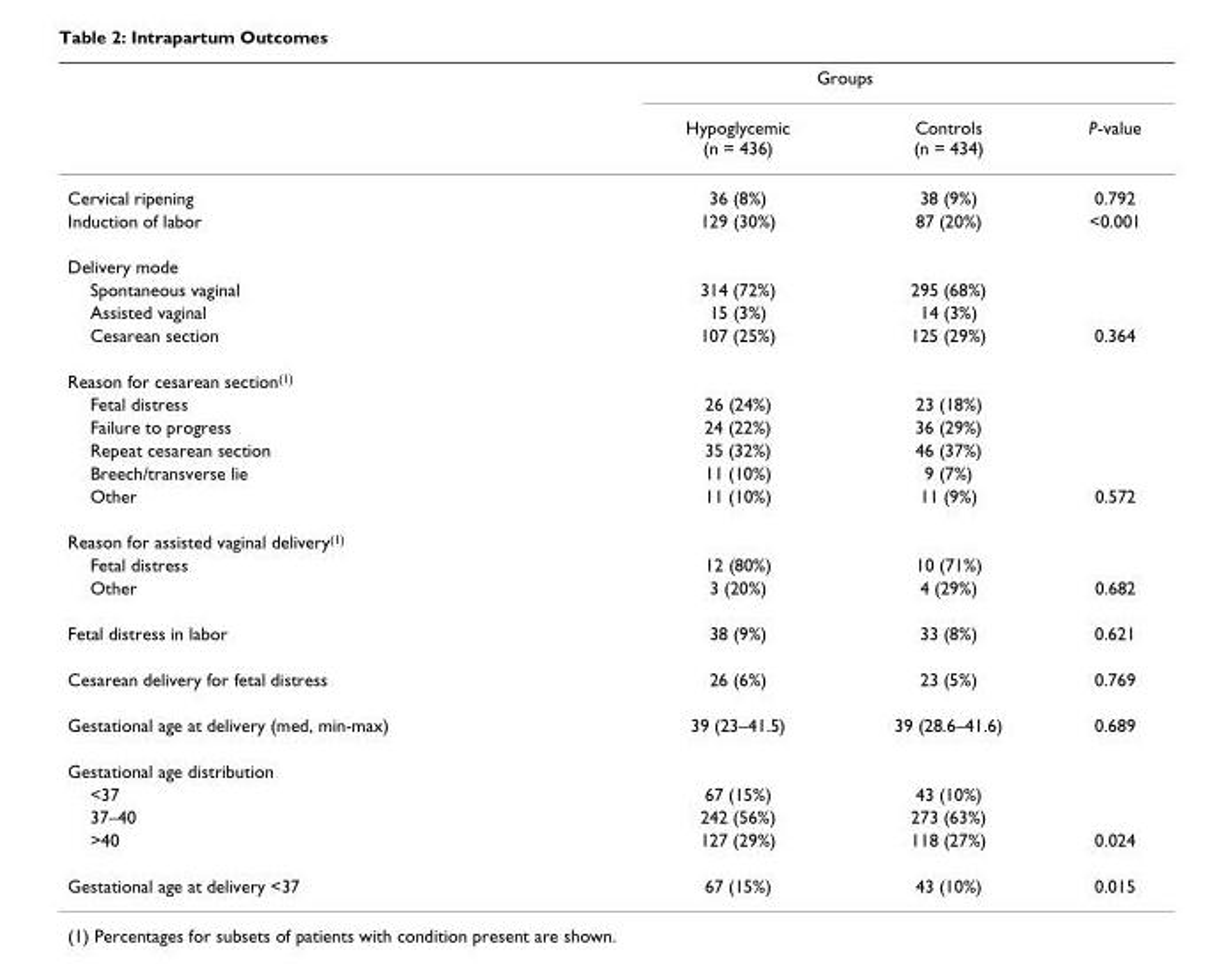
<table><thead><tr><td rowspan="2"></td><td colspan="2">Groups</td><td rowspan="2">P-value</td></tr><tr><td>Hypoglycemic (n = 436)</td><td>Controls (n = 434)</td></tr></thead><tbody><tr><td>Cervical ripening</td><td>36 (8%)</td><td>38 (9%)</td><td>0.792</td></tr><tr><td>Induction of labor</td><td>129 (30%)</td><td>87 (20%)</td><td>&lt;0.001</td></tr><tr><td colspan="4">Delivery mode</td></tr><tr><td>Spontaneous vaginal</td><td>314 (72%)</td><td>295 (68%)</td><td></td></tr><tr><td>Assisted vaginal</td><td>15 (3%)</td><td>14 (3%)</td><td></td></tr><tr><td>Cesarean section</td><td>107 (25%)</td><td>125 (29%)</td><td>0.364</td></tr><tr><td colspan="4">Reason for cesarean section<sup>(1)</sup></td></tr><tr><td>Fetal distress</td><td>26 (24%)</td><td>23 (18%)</td><td></td></tr><tr><td>Failure to progress</td><td>24 (22%)</td><td>36 (29%)</td><td></td></tr><tr><td>Repeat cesarean section</td><td>35 (32%)</td><td>46 (37%)</td><td></td></tr><tr><td>Breech/transverse lie</td><td>11 (10%)</td><td>9 (7%)</td><td></td></tr><tr><td>Other</td><td>11 (10%)</td><td>11 (9%)</td><td>0.572</td></tr><tr><td colspan="4">Reason for assisted vaginal delivery<sup>(1)</sup></td></tr><tr><td>Fetal distress</td><td>12 (80%)</td><td>10 (71%)</td><td></td></tr><tr><td>Other</td><td>3 (20%)</td><td>4 (29%)</td><td>0.682</td></tr><tr><td>Fetal distress in labor</td><td>38 (9%)</td><td>33 (8%)</td><td>0.621</td></tr><tr><td>Cesarean delivery for fetal distress</td><td>26 (6%)</td><td>23 (5%)</td><td>0.769</td></tr><tr><td>Gestational age at delivery (med, min-max)</td><td>39 (23–41.5)</td><td>39 (28.6–41.6)</td><td>0.689</td></tr><tr><td colspan="4">Gestational age distribution</td></tr><tr><td>&lt;37</td><td>67 (15%)</td><td>43 (10%)</td><td></td></tr><tr><td>37–40</td><td>242 (56%)</td><td>273 (63%)</td><td></td></tr><tr><td>&gt;40</td><td>127 (29%)</td><td>118 (27%)</td><td>0.024</td></tr><tr><td>Gestational age at delivery &lt;37</td><td>67 (15%)</td><td>43 (10%)</td><td>0.015</td></tr></tbody></table>